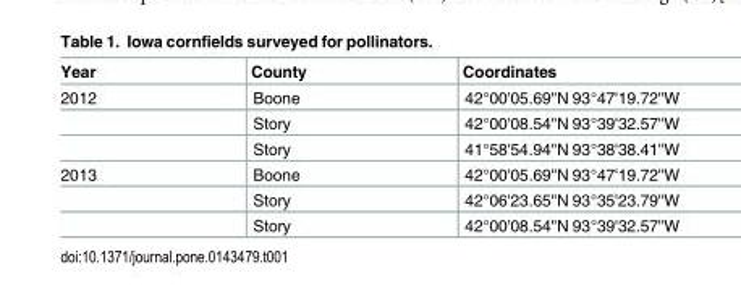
<table><thead><tr><td>Year</td><td>County</td><td>Coordinates</td></tr></thead><tbody><tr><td rowspan="3">2012</td><td>Boone</td><td>42°00&#x27;05.69&#x27;&#x27;N 93°47&#x27;19.72&#x27;&#x27;W</td></tr><tr><td>Story</td><td>42°00&#x27;08.54&#x27;&#x27;N 93°39&#x27;32.57&#x27;&#x27;W</td></tr><tr><td>Story</td><td>41°58&#x27;54.94&#x27;&#x27;N 93°38&#x27;38.41&#x27;&#x27;W</td></tr><tr><td rowspan="3">2013</td><td>Boone</td><td>42°00&#x27;05.69&#x27;&#x27;N 93°47&#x27;19.72&#x27;&#x27;W</td></tr><tr><td>Story</td><td>42°06&#x27;23.65&#x27;&#x27;N 93°35&#x27;23.79&#x27;&#x27;W</td></tr><tr><td>Story</td><td>42°00&#x27;08.54&#x27;&#x27;N 93°39&#x27;32.57&#x27;&#x27;W</td></tr></tbody></table>